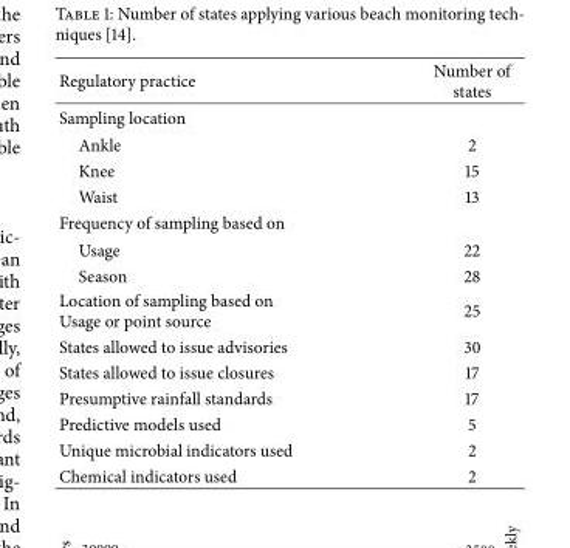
<table><thead><tr><td>Regulatory practice</td><td>Number of states</td></tr></thead><tbody><tr><td colspan="2">Sampling location</td></tr><tr><td>Ankle</td><td>2</td></tr><tr><td>Knee</td><td>15</td></tr><tr><td>Waist</td><td>13</td></tr><tr><td colspan="2">Frequency of sampling based on</td></tr><tr><td>Usage</td><td>22</td></tr><tr><td>Season</td><td>28</td></tr><tr><td>Location of sampling based on Usage or point source</td><td>25</td></tr><tr><td>States allowed to issue advisories</td><td>30</td></tr><tr><td>States allowed to issue closures</td><td>17</td></tr><tr><td>Presumptive rainfall standards</td><td>17</td></tr><tr><td>Predictive models used</td><td>5</td></tr><tr><td>Unique microbial indicators used</td><td>2</td></tr><tr><td>Chemical indicators used</td><td>2</td></tr></tbody></table>